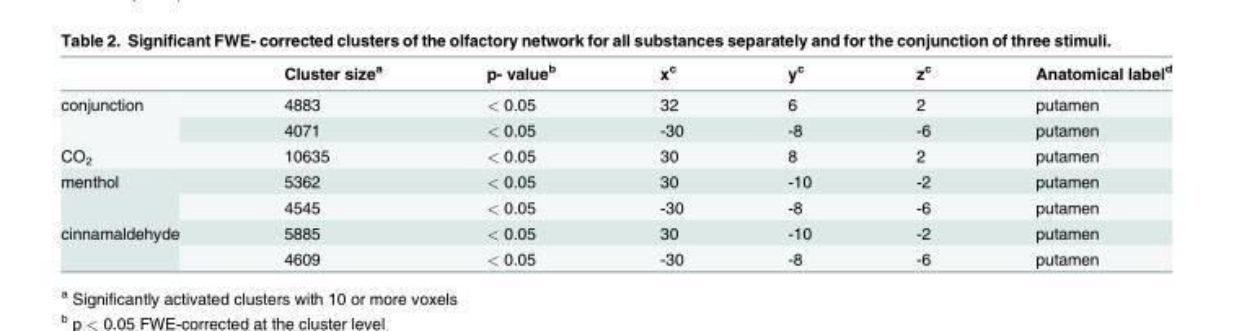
<table><thead><tr><td></td><td>Cluster size<sup>a</sup></td><td>p- value<sup>b</sup></td><td>x<sup>c</sup></td><td>y<sup>c</sup></td><td>z<sup>c</sup></td><td>Anatomical label<sup>d</sup></td></tr></thead><tbody><tr><td rowspan="2">conjunction</td><td>4883</td><td>&lt; 0.05</td><td>32</td><td>6</td><td>2</td><td>putamen</td></tr><tr><td>4071</td><td>&lt; 0.05</td><td>-30</td><td>-8</td><td>-6</td><td>putamen</td></tr><tr><td>CO<sub>2</sub></td><td>10635</td><td>&lt; 0.05</td><td>30</td><td>8</td><td>2</td><td>putamen</td></tr><tr><td rowspan="2">menthol</td><td>5362</td><td>&lt; 0.05</td><td>30</td><td>-10</td><td>-2</td><td>putamen</td></tr><tr><td>4545</td><td>&lt; 0.05</td><td>-30</td><td>-8</td><td>-6</td><td>putamen</td></tr><tr><td rowspan="2">cinnamaldehyde</td><td>5885</td><td>&lt; 0.05</td><td>30</td><td>-10</td><td>-2</td><td>putamen</td></tr><tr><td>4609</td><td>&lt; 0.05</td><td>-30</td><td>-8</td><td>-6</td><td>putamen</td></tr></tbody></table>